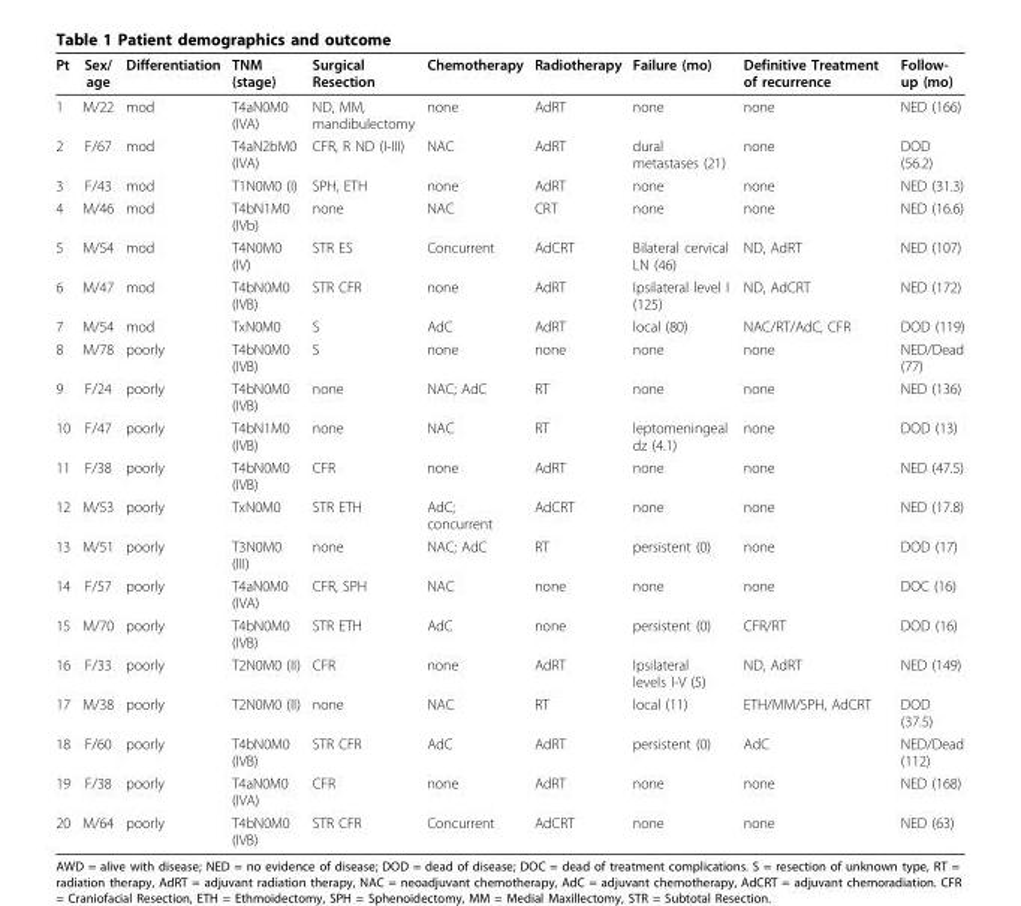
<table><thead><tr><td>Pt</td><td>Sex/ age</td><td>Differentiation</td><td>TNM (stage)</td><td>Surgical Resection</td><td>Chemotherapy</td><td>Radiotherapy</td><td>Failure (mo)</td><td>Definitive Treatment of recurrence</td><td>Follow- up (mo)</td></tr></thead><tbody><tr><td>1</td><td>M/22</td><td>mod</td><td>T4aN0M0 (IVA)</td><td>ND, MM, mandibulectomy</td><td>none</td><td>AdRT</td><td>none</td><td>none</td><td>NED (166)</td></tr><tr><td>2</td><td>F/67</td><td>mod</td><td>T4aN2bM0 (IVA)</td><td>CFR, R ND (I-III)</td><td>NAC</td><td>AdRT</td><td>dural metastases (21)</td><td>none</td><td>DOD (56.2)</td></tr><tr><td>3</td><td>F/43</td><td>mod</td><td>T1N0M0 (I)</td><td>SPH, ETH</td><td>none</td><td>AdRT</td><td>none</td><td>none</td><td>NED (31.3)</td></tr><tr><td>4</td><td>M/46</td><td>mod</td><td>T4bN1M0 (IVb)</td><td>none</td><td>NAC</td><td>CRT</td><td>none</td><td>none</td><td>NED (16.6)</td></tr><tr><td>5</td><td>M/54</td><td>mod</td><td>T4N0M0 (IV)</td><td>STR ES</td><td>Concurrent</td><td>AdCRT</td><td>Bilateral cervical LN (46)</td><td>ND, AdRT</td><td>NED (107)</td></tr><tr><td>6</td><td>M/47</td><td>mod</td><td>T4bN0M0 (IVB)</td><td>STR CFR</td><td>none</td><td>AdRT</td><td>Ipsilateral level I (125)</td><td>ND, AdCRT</td><td>NED (172)</td></tr><tr><td>7</td><td>M/54</td><td>mod</td><td>TxN0M0</td><td>S</td><td>AdC</td><td>AdRT</td><td>local (80)</td><td>NAC/RT/AdC, CFR</td><td>DOD (119)</td></tr><tr><td>8</td><td>M/78</td><td>poorly</td><td>T4bN0M0 (IVB)</td><td>S</td><td>none</td><td>none</td><td>none</td><td>none</td><td>NED/Dead (77)</td></tr><tr><td>9</td><td>F/24</td><td>poorly</td><td>T4bN0M0 (IVB)</td><td>none</td><td>NAC; AdC</td><td>RT</td><td>none</td><td>none</td><td>NED (136)</td></tr><tr><td>10</td><td>F/47</td><td>poorly</td><td>T4bN1M0 (IVB)</td><td>none</td><td>NAC</td><td>RT</td><td>leptomeningeal dz (4.1)</td><td>none</td><td>DOD (13)</td></tr><tr><td>11</td><td>F/38</td><td>poorly</td><td>T4bN0M0 (IVB)</td><td>CFR</td><td>none</td><td>AdRT</td><td>none</td><td>none</td><td>NED (47.5)</td></tr><tr><td>12</td><td>M/53</td><td>poorly</td><td>TxN0M0</td><td>STR ETH</td><td>AdC; concurrent</td><td>AdCRT</td><td>none</td><td>none</td><td>NED (17.8)</td></tr><tr><td>13</td><td>M/51</td><td>poorly</td><td>T3N0M0 (III)</td><td>none</td><td>NAC; AdC</td><td>RT</td><td>persistent (0)</td><td>none</td><td>DOD (17)</td></tr><tr><td>14</td><td>F/57</td><td>poorly</td><td>T4aN0M0 (IVA)</td><td>CFR, SPH</td><td>NAC</td><td>none</td><td>none</td><td>none</td><td>DOC (16)</td></tr><tr><td>15</td><td>M/70</td><td>poorly</td><td>T4bN0M0 (IVB)</td><td>STR ETH</td><td>AdC</td><td>none</td><td>persistent (0)</td><td>CFR/RT</td><td>DOD (16)</td></tr><tr><td>16</td><td>F/33</td><td>poorly</td><td>T2N0M0 (II)</td><td>CFR</td><td>none</td><td>AdRT</td><td>Ipsilateral levels I-V (5)</td><td>ND, AdRT</td><td>NED (149)</td></tr><tr><td>17</td><td>M/38</td><td>poorly</td><td>T2N0M0 (II)</td><td>none</td><td>NAC</td><td>RT</td><td>local (11)</td><td>ETH/MM/SPH, AdCRT</td><td>DOD (37.5)</td></tr><tr><td>18</td><td>F/60</td><td>poorly</td><td>T4bN0M0 (IVB)</td><td>STR CFR</td><td>AdC</td><td>AdRT</td><td>persistent (0)</td><td>AdC</td><td>NED/Dead (112)</td></tr><tr><td>19</td><td>F/38</td><td>poorly</td><td>T4aN0M0 (IVA)</td><td>CFR</td><td>none</td><td>AdRT</td><td>none</td><td>none</td><td>NED (168)</td></tr><tr><td>20</td><td>M/64</td><td>poorly</td><td>T4bN0M0 (IVB)</td><td>STR CFR</td><td>Concurrent</td><td>AdCRT</td><td>none</td><td>none</td><td>NED (63)</td></tr></tbody></table>